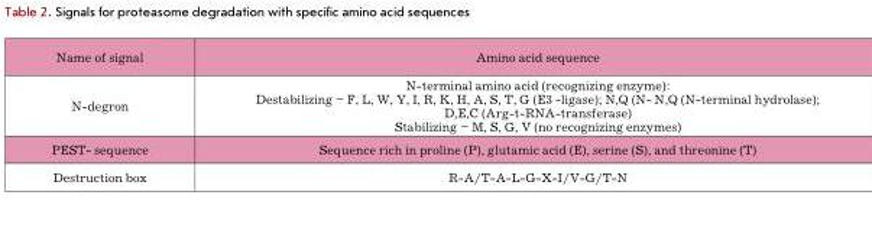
<table><thead><tr><td>Name of signal</td><td>Amino acid sequence</td></tr></thead><tbody><tr><td>N-degron</td><td>N-terminal amino acid (recognizing enzyme): Destabilizing – F, L, W, Y, I, R, K, H, A, S, T, G (Е3 -ligase); N,Q (N- N,Q (N-terminal hydrolase); D,E,C (Arg-t-RNA-transferase) Stabilizing – M, S, G, V (no recognizing enzymes)</td></tr><tr><td>PEST- sequence</td><td>Sequence rich in proline (P), glutamic acid (E), serine (S), and threonine (T)</td></tr><tr><td>Destruction box</td><td>R-A/T-A-L-G-X-I/V-G/T-N</td></tr></tbody></table>